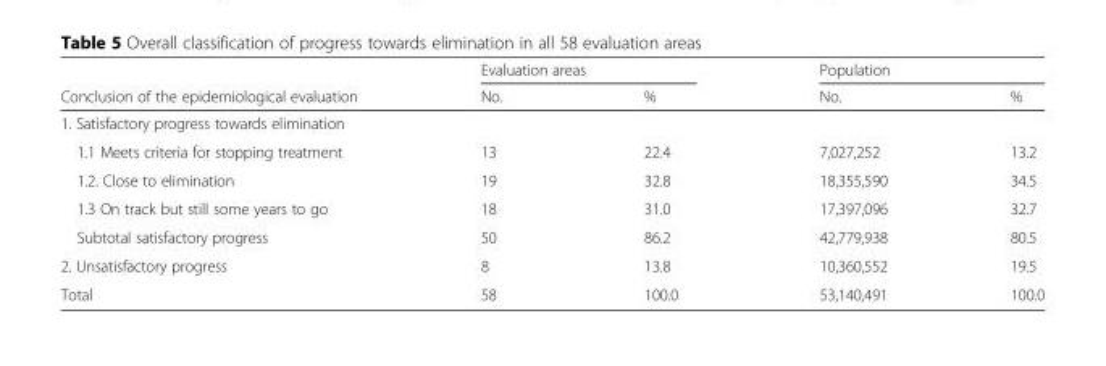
<table><thead><tr><td rowspan="2">Conclusion of the epidemiological evaluation</td><td colspan="2">Evaluation areas</td><td colspan="2">Population</td></tr><tr><td>No.</td><td>%</td><td>No.</td><td>%</td></tr></thead><tbody><tr><td colspan="5">1. Satisfactory progress towards elimination</td></tr><tr><td>1.1 Meets criteria for stopping treatment</td><td>13</td><td>22.4</td><td>7,027,252</td><td>13.2</td></tr><tr><td>1.2. Close to elimination</td><td>19</td><td>32.8</td><td>18,355,590</td><td>34.5</td></tr><tr><td>1.3 On track but still some years to go</td><td>18</td><td>31.0</td><td>17,397,096</td><td>32.7</td></tr><tr><td>Subtotal satisfactory progress</td><td>50</td><td>86.2</td><td>42,779,938</td><td>80.5</td></tr><tr><td>2. Unsatisfactory progress</td><td>8</td><td>13.8</td><td>10,360,552</td><td>19.5</td></tr><tr><td>Total</td><td>58</td><td>100.0</td><td>53,140,491</td><td>100.0</td></tr></tbody></table>